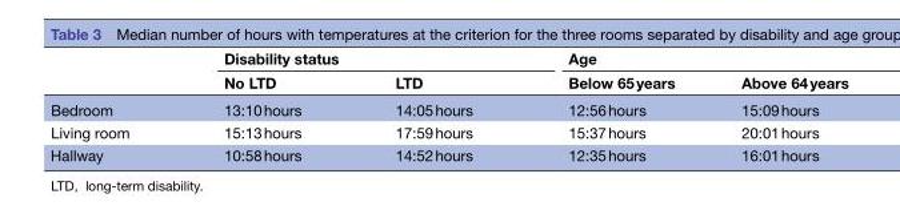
<table><thead><tr><td rowspan="2"></td><td colspan="2">Disability status</td><td colspan="2">Age</td></tr><tr><td>No LTD</td><td>LTD</td><td>Below 65 years</td><td>Above 64 years</td></tr></thead><tbody><tr><td>Bedroom</td><td>13:10 hours</td><td>14:05 hours</td><td>12:56 hours</td><td>15:09 hours</td></tr><tr><td>Living room</td><td>15:13 hours</td><td>17:59 hours</td><td>15:37 hours</td><td>20:01 hours</td></tr><tr><td>Hallway</td><td>10:58 hours</td><td>14:52 hours</td><td>12:35 hours</td><td>16:01 hours</td></tr></tbody></table>